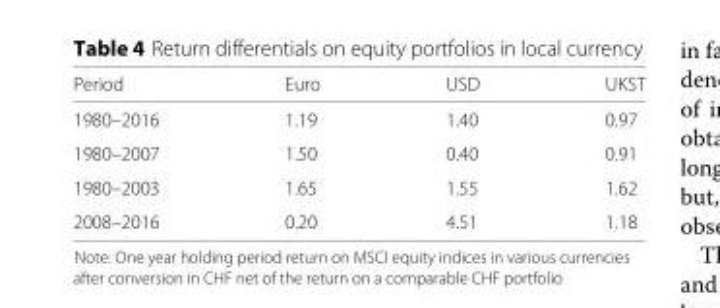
<table><thead><tr><td>Period</td><td>Euro</td><td>USD</td><td>UKST</td></tr></thead><tbody><tr><td>1980–2016</td><td>1.19</td><td>1.40</td><td>0.97</td></tr><tr><td>1980–2007</td><td>1.50</td><td>0.40</td><td>0.91</td></tr><tr><td>1980–2003</td><td>1.65</td><td>1.55</td><td>1.62</td></tr><tr><td>2008–2016</td><td>0.20</td><td>4.51</td><td>1.18</td></tr></tbody></table>